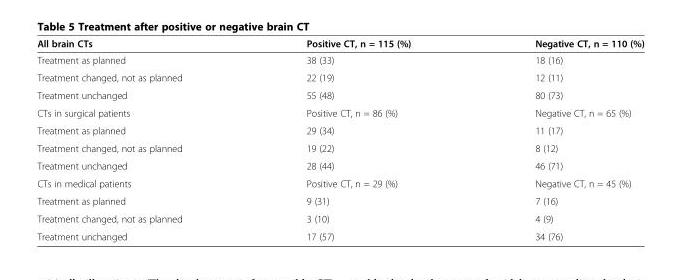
<table><thead><tr><td>All brain CTs</td><td>Positive CT, n = 115 (%)</td><td>Negative CT, n = 110 (%)</td></tr></thead><tbody><tr><td>Treatment as planned</td><td>38 (33)</td><td>18 (16)</td></tr><tr><td>Treatment changed, not as planned</td><td>22 (19)</td><td>12 (11)</td></tr><tr><td>Treatment unchanged</td><td>55 (48)</td><td>80 (73)</td></tr><tr><td>CTs in surgical patients</td><td>Positive CT, n = 86 (%)</td><td>Negative CT, n = 65 (%)</td></tr><tr><td>Treatment as planned</td><td>29 (34)</td><td>11 (17)</td></tr><tr><td>Treatment changed, not as planned</td><td>19 (22)</td><td>8 (12)</td></tr><tr><td>Treatment unchanged</td><td>28 (44)</td><td>46 (71)</td></tr><tr><td>CTs in medical patients</td><td>Positive CT, n = 29 (%)</td><td>Negative CT, n = 45 (%)</td></tr><tr><td>Treatment as planned</td><td>9 (31)</td><td>7 (16)</td></tr><tr><td>Treatment changed, not as planned</td><td>3 (10)</td><td>4 (9)</td></tr><tr><td>Treatment unchanged</td><td>17 (57)</td><td>34 (76)</td></tr></tbody></table>